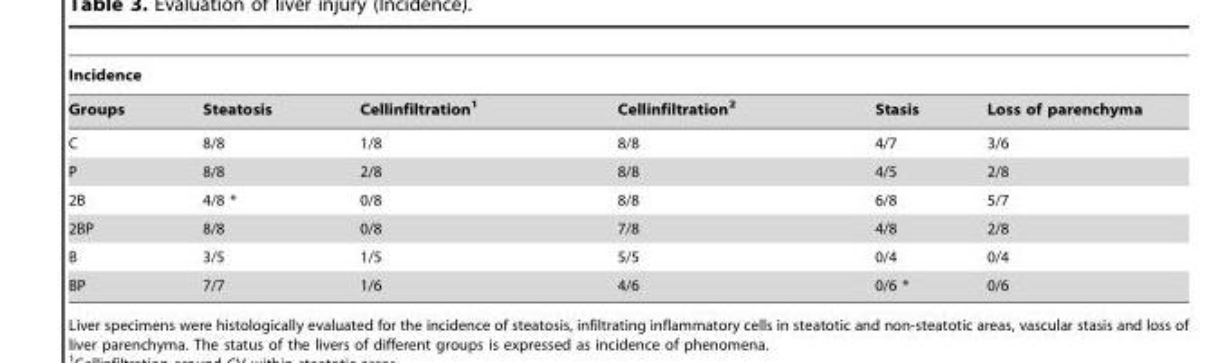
<table><thead><tr><td colspan="6">Incidence</td></tr><tr><td>Groups</td><td>Steatosis</td><td>Cellinfiltration<sup>1</sup></td><td>Cellinfiltration<sup>2</sup></td><td>Stasis</td><td>Loss of parenchyma</td></tr></thead><tbody><tr><td>C</td><td>8/8</td><td>1/8</td><td>8/8</td><td>4/7</td><td>3/6</td></tr><tr><td>P</td><td>8/8</td><td>2/8</td><td>8/8</td><td>4/5</td><td>2/8</td></tr><tr><td>2B</td><td>4/8 *</td><td>0/8</td><td>8/8</td><td>6/8</td><td>5/7</td></tr><tr><td>2BP</td><td>8/8</td><td>0/8</td><td>7/8</td><td>4/8</td><td>2/8</td></tr><tr><td>B</td><td>3/5</td><td>1/5</td><td>5/5</td><td>0/4</td><td>0/4</td></tr><tr><td>BP</td><td>7/7</td><td>1/6</td><td>4/6</td><td>0/6 *</td><td>0/6</td></tr></tbody></table>